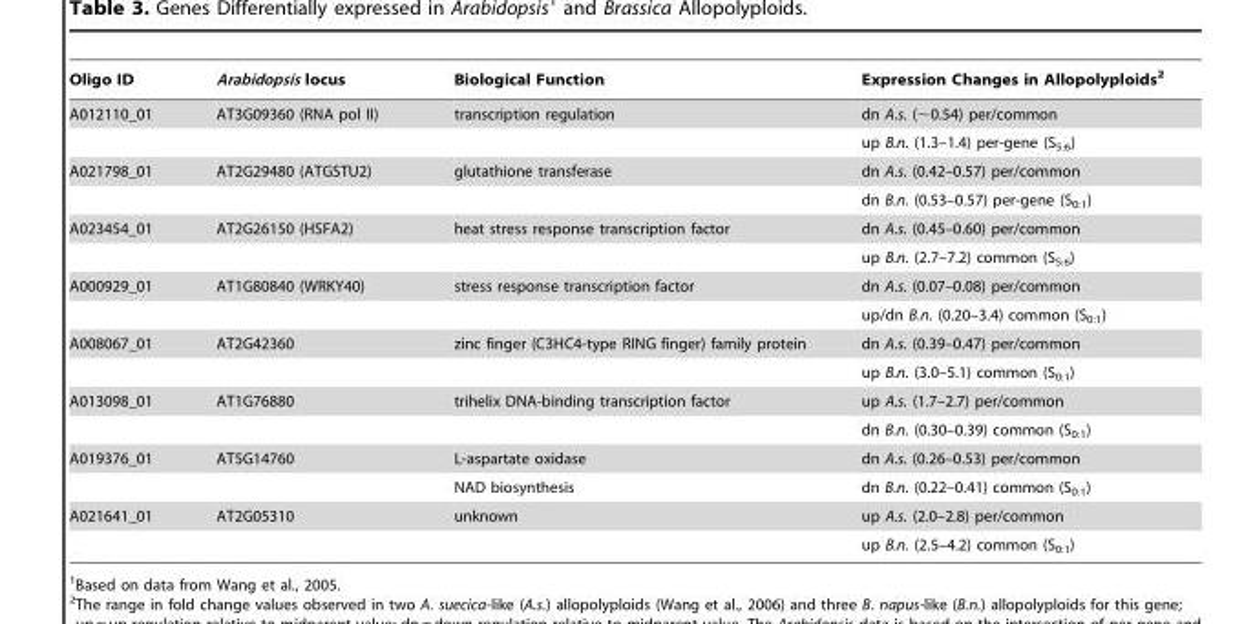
<table><thead><tr><td>Oligo ID</td><td>Arabidopsis locus</td><td>Biological Function</td><td>Expression Changes in Allopolyploids<sup>2</sup></td></tr></thead><tbody><tr><td rowspan="2">A012110_01</td><td>AT3G09360 (RNA pol II)</td><td>transcription regulation</td><td>dn A.s. (∼0.54) per/common</td></tr><tr><td></td><td></td><td>up B.n. (1.3–1.4) per-gene (S5:6)</td></tr><tr><td rowspan="2">A021798_01</td><td>AT2G29480 (ATGSTU2)</td><td>glutathione transferase</td><td>dn A.s. (0.42–0.57) per/common</td></tr><tr><td></td><td></td><td>dn B.n. (0.53–0.57) per-gene (S0:1)</td></tr><tr><td rowspan="2">A023454_01</td><td>AT2G26150 (HSFA2)</td><td>heat stress response transcription factor</td><td>dn A.s. (0.45–0.60) per/common</td></tr><tr><td></td><td></td><td>up B.n. (2.7–7.2) common (S5:6)</td></tr><tr><td rowspan="2">A000929_01</td><td>AT1G80840 (WRKY40)</td><td>stress response transcription factor</td><td>dn A.s. (0.07–0.08) per/common</td></tr><tr><td></td><td></td><td>up/dn B.n. (0.20–3.4) common (S0:1)</td></tr><tr><td rowspan="2">A008067_01</td><td>AT2G42360</td><td>zinc finger (C3HC4-type RING finger) family protein</td><td>dn A.s. (0.39–0.47) per/common</td></tr><tr><td></td><td></td><td>up B.n. (3.0–5.1) common (S0:1)</td></tr><tr><td rowspan="2">A013098_01</td><td>AT1G76880</td><td>trihelix DNA-binding transcription factor</td><td>up A.s. (1.7–2.7) per/common</td></tr><tr><td></td><td></td><td>dn B.n. (0.30–0.39) common (S0:1)</td></tr><tr><td rowspan="2">A019376_01</td><td>AT5G14760</td><td>L-aspartate oxidase</td><td>dn A.s. (0.26–0.53) per/common</td></tr><tr><td></td><td>NAD biosynthesis</td><td>dn B.n. (0.22–0.41) common (S0:1)</td></tr><tr><td rowspan="2">A021641_01</td><td>AT2G05310</td><td>unknown</td><td>up A.s. (2.0–2.8) per/common</td></tr><tr><td></td><td></td><td>up B.n. (2.5–4.2) common (S0:1)</td></tr></tbody></table>